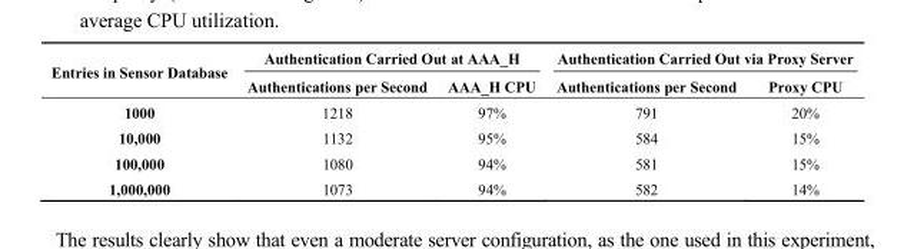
<table><thead><tr><td rowspan="2">Entries in Sensor Database</td><td colspan="2">Authentication Carried Out at AAA_H</td><td colspan="2">Authentication Carried Out via Proxy Server</td></tr><tr><td>Authentications per Second</td><td>AAA_H CPU</td><td>Authentications per Second</td><td>Proxy CPU</td></tr></thead><tbody><tr><td>1000</td><td>1218</td><td>97%</td><td>791</td><td>20%</td></tr><tr><td>10,000</td><td>1132</td><td>95%</td><td>584</td><td>15%</td></tr><tr><td>100,000</td><td>1080</td><td>94%</td><td>581</td><td>15%</td></tr><tr><td>1,000,000</td><td>1073</td><td>94%</td><td>582</td><td>14%</td></tr></tbody></table>